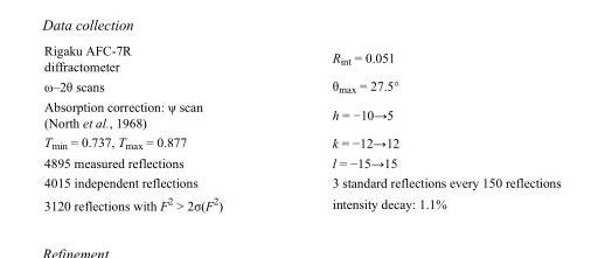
<table><tbody><tr><td>Rigaku AFC-7R diffractometer</td><td>R<sub>int</sub> = 0.051</td></tr><tr><td>ω–2θ scans</td><td>θ<sub>max</sub> = 27.5°</td></tr><tr><td>Absorption correction: ψ scan (North et al., 1968)</td><td>h = −10→5</td></tr><tr><td>T<sub>min</sub> = 0.737, T<sub>max</sub> = 0.877</td><td>k = −12→12</td></tr><tr><td>4895 measured reflections</td><td>l = −15→15</td></tr><tr><td>4015 independent reflections</td><td>3 standard reflections every 150 reflections</td></tr><tr><td>3120 reflections with F<sup>2</sup> &gt; 2σ(F<sup>2</sup>)</td><td>intensity decay: 1.1%</td></tr></tbody></table>